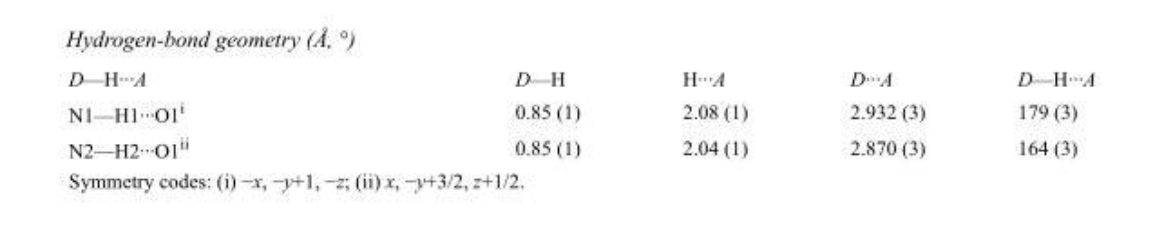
<table><tbody><tr><td>D—H···A</td><td>D—H</td><td>H···A</td><td>D···A</td><td>D—H···A</td></tr><tr><td>N1—H1···O1<sup>i</sup></td><td>0.85 (1)</td><td>2.08 (1)</td><td>2.932 (3)</td><td>179 (3)</td></tr><tr><td>N2—H2···O1<sup>ii</sup></td><td>0.85 (1)</td><td>2.04 (1)</td><td>2.870 (3)</td><td>164 (3)</td></tr></tbody></table>